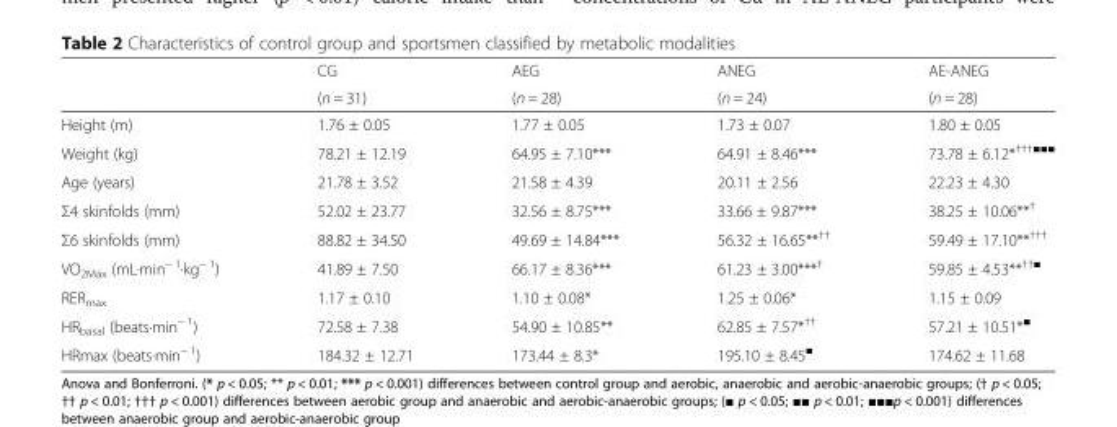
<table><thead><tr><td rowspan="2"></td><td rowspan="2">CG (n = 31)</td><td rowspan="2">AEG (n = 28)</td><td rowspan="2">ANEG (n = 24)</td><td rowspan="2">AE-ANEG (n = 28)</td></tr><tr></tr></thead><tbody><tr><td>Height (m)</td><td>1.76 ± 0.05</td><td>1.77 ± 0.05</td><td>1.73 ± 0.07</td><td>1.80 ± 0.05</td></tr><tr><td>Weight (kg)</td><td>78.21 ± 12.19</td><td>64.95 ± 7.10***</td><td>64.91 ± 8.46***</td><td>73.78 ± 6.12*<sup>†††■■■</sup></td></tr><tr><td>Age (years)</td><td>21.78 ± 3.52</td><td>21.58 ± 4.39</td><td>20.11 ± 2.56</td><td>22.23 ± 4.30</td></tr><tr><td>Σ4 skinfolds (mm)</td><td>52.02 ± 23.77</td><td>32.56 ± 8.75***</td><td>33.66 ± 9.87***</td><td>38.25 ± 10.06**<sup>†</sup></td></tr><tr><td>Σ6 skinfolds (mm)</td><td>88.82 ± 34.50</td><td>49.69 ± 14.84***</td><td>56.32 ± 16.65**<sup>††</sup></td><td>59.49 ± 17.10**<sup>†††</sup></td></tr><tr><td>VO<sub>2Máx</sub> (mL·min<sup>− 1</sup>·kg<sup>− 1</sup>)</td><td>41.89 ± 7.50</td><td>66.17 ± 8.36***</td><td>61.23 ± 3.00***<sup>†</sup></td><td>59.85 ± 4.53**<sup>††■</sup></td></tr><tr><td>RER<sub>max</sub></td><td>1.17 ± 0.10</td><td>1.10 ± 0.08*</td><td>1.25 ± 0.06*</td><td>1.15 ± 0.09</td></tr><tr><td>HR<sub>basal</sub> (beats·min<sup>− 1</sup>)</td><td>72.58 ± 7.38</td><td>54.90 ± 10.85**</td><td>62.85 ± 7.57*<sup>††</sup></td><td>57.21 ± 10.51*<sup>■</sup></td></tr><tr><td>HRmax (beats·min<sup>− 1</sup>)</td><td>184.32 ± 12.71</td><td>173.44 ± 8.3*</td><td>195.10 ± 8.45<sup>■</sup></td><td>174.62 ± 11.68</td></tr></tbody></table>